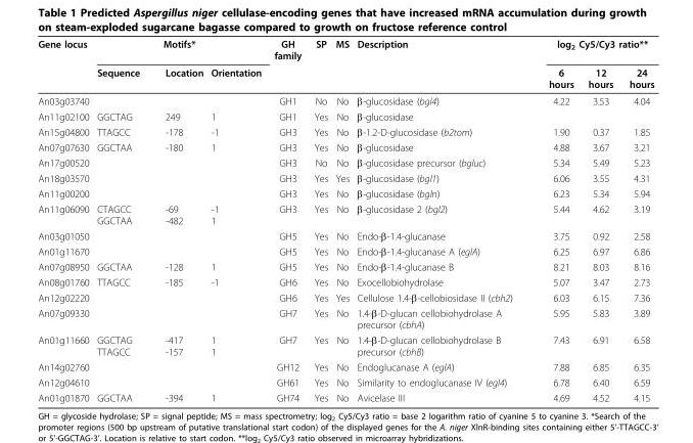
<table><thead><tr><td rowspan="2">Gene locus</td><td colspan="3">Motifs*</td><td rowspan="2">GH family</td><td rowspan="2">SP</td><td rowspan="2">MS</td><td rowspan="2">Description</td><td colspan="3">log<sub>2</sub> Cy5/Cy3 ratio**</td></tr><tr><td>Sequence</td><td>Location</td><td>Orientation</td><td>6 hours</td><td>12 hours</td><td>24 hours</td></tr></thead><tbody><tr><td>An03g03740</td><td></td><td></td><td></td><td>GH1</td><td>No</td><td>No</td><td>β-glucosidase (bgl4)</td><td>4.22</td><td>3.53</td><td>4.04</td></tr><tr><td>An11g02100</td><td>GGCTAG</td><td>249</td><td>1</td><td>GH1</td><td>Yes</td><td>No</td><td>β-glucosidase</td><td></td><td></td><td></td></tr><tr><td>An15g04800</td><td>TTAGCC</td><td>-178</td><td>-1</td><td>GH3</td><td>Yes</td><td>No</td><td>β-1.2-D-glucosidase (b2tom)</td><td>1.90</td><td>0.37</td><td>1.85</td></tr><tr><td>An07g07630</td><td>GGCTAA</td><td>-180</td><td>1</td><td>GH3</td><td>Yes</td><td>No</td><td>β-glucosidase</td><td>4.88</td><td>3.67</td><td>3.21</td></tr><tr><td>An17g00520</td><td></td><td></td><td></td><td>GH3</td><td>No</td><td>No</td><td>β-glucosidase precursor (bgluc)</td><td>5.34</td><td>5.49</td><td>5.23</td></tr><tr><td>An18g03570</td><td></td><td></td><td></td><td>GH3</td><td>Yes</td><td>Yes</td><td>β-glucosidase (bgl1)</td><td>6.06</td><td>3.55</td><td>4.31</td></tr><tr><td>An11g00200</td><td></td><td></td><td></td><td>GH3</td><td>Yes</td><td>No</td><td>β-glucosidase (bgln)</td><td>6.23</td><td>5.34</td><td>5.94</td></tr><tr><td>An11g06090</td><td>CTAGCC GGCTAA</td><td>-69 -482</td><td>-1 1</td><td>GH3</td><td>Yes</td><td>No</td><td>β-glucosidase 2 (bgl2)</td><td>5.44</td><td>4.62</td><td>3.19</td></tr><tr><td>An03g01050</td><td></td><td></td><td></td><td>GH5</td><td>Yes</td><td>No</td><td>Endo-β-1.4-glucanase</td><td>3.75</td><td>0.92</td><td>2.58</td></tr><tr><td>An01g11670</td><td></td><td></td><td></td><td>GH5</td><td>Yes</td><td>No</td><td>Endo-β-1.4-glucanase A (eglA)</td><td>6.25</td><td>6.97</td><td>6.86</td></tr><tr><td>An07g08950</td><td>GGCTAA</td><td>-128</td><td>1</td><td>GH5</td><td>Yes</td><td>No</td><td>Endo-β-1.4-glucanase B</td><td>8.21</td><td>8.03</td><td>8.16</td></tr><tr><td>An08g01760</td><td>TTAGCC</td><td>-185</td><td>-1</td><td>GH6</td><td>Yes</td><td>No</td><td>Exocellobiohydrolase</td><td>5.07</td><td>3.47</td><td>2.73</td></tr><tr><td>An12g02220</td><td></td><td></td><td></td><td>GH6</td><td>Yes</td><td>Yes</td><td>Cellulose 1.4-β-cellobiosidase II (cbh2)</td><td>6.03</td><td>6.15</td><td>7.36</td></tr><tr><td>An07g09330</td><td></td><td></td><td></td><td>GH7</td><td>Yes</td><td>No</td><td>1.4-β-D-glucan cellobiohydrolase A precursor (cbhA)</td><td>5.95</td><td>5.83</td><td>3.89</td></tr><tr><td>An01g11660</td><td>GGCTAG TTAGCC</td><td>-417 -157</td><td>1 1</td><td>GH7</td><td>Yes</td><td>No</td><td>1.4-β-D-glucan cellobiohydrolase B precursor (cbhB)</td><td>7.43</td><td>6.91</td><td>6.58</td></tr><tr><td>An14g02760</td><td></td><td></td><td></td><td>GH12</td><td>Yes</td><td>No</td><td>Endoglucanase A (eglA)</td><td>7.88</td><td>6.85</td><td>6.35</td></tr><tr><td>An12g04610</td><td></td><td></td><td></td><td>GH61</td><td>Yes</td><td>No</td><td>Similarity to endoglucanase IV (egl4)</td><td>6.78</td><td>6.40</td><td>6.59</td></tr><tr><td>An01g01870</td><td>GGCTAA</td><td>-394</td><td>1</td><td>GH74</td><td>Yes</td><td>No</td><td>Avicelase III</td><td>4.69</td><td>4.52</td><td>4.15</td></tr></tbody></table>